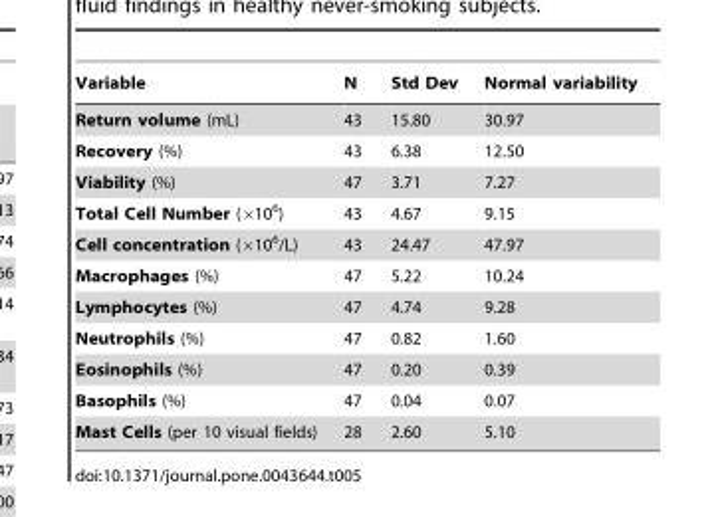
<table><thead><tr><td>Variable</td><td>N</td><td>Std Dev</td><td>Normal variability</td></tr></thead><tbody><tr><td>Return volume (mL)</td><td>43</td><td>15.80</td><td>30.97</td></tr><tr><td>Recovery (%)</td><td>43</td><td>6.38</td><td>12.50</td></tr><tr><td>Viability (%)</td><td>47</td><td>3.71</td><td>7.27</td></tr><tr><td>Total Cell Number (×10<sup>6</sup>)</td><td>43</td><td>4.67</td><td>9.15</td></tr><tr><td>Cell concentration (×10<sup>6</sup>/L)</td><td>43</td><td>24.47</td><td>47.97</td></tr><tr><td>Macrophages (%)</td><td>47</td><td>5.22</td><td>10.24</td></tr><tr><td>Lymphocytes (%)</td><td>47</td><td>4.74</td><td>9.28</td></tr><tr><td>Neutrophils (%)</td><td>47</td><td>0.82</td><td>1.60</td></tr><tr><td>Eosinophils (%)</td><td>47</td><td>0.20</td><td>0.39</td></tr><tr><td>Basophils (%)</td><td>47</td><td>0.04</td><td>0.07</td></tr><tr><td>Mast Cells (per 10 visual fields)</td><td>28</td><td>2.60</td><td>5.10</td></tr></tbody></table>